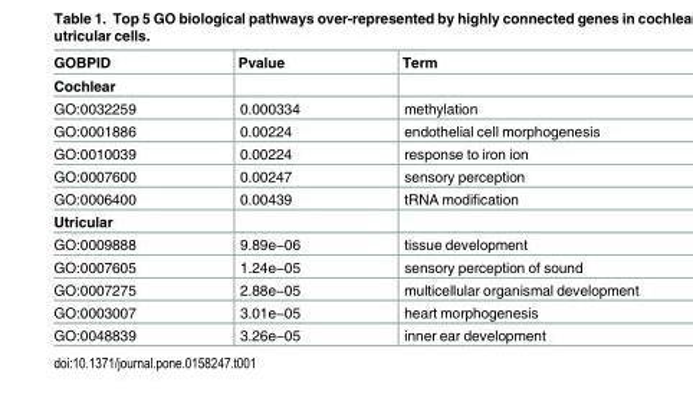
<table><thead><tr><td>GOBPID</td><td>Pvalue</td><td>Term</td></tr></thead><tbody><tr><td colspan="3">Cochlear</td></tr><tr><td>GO:0032259</td><td>0.000334</td><td>methylation</td></tr><tr><td>GO:0001886</td><td>0.00224</td><td>endothelial cell morphogenesis</td></tr><tr><td>GO:0010039</td><td>0.00224</td><td>response to iron ion</td></tr><tr><td>GO:0007600</td><td>0.00247</td><td>sensory perception</td></tr><tr><td>GO:0006400</td><td>0.00439</td><td>tRNA modification</td></tr><tr><td colspan="3">Utricular</td></tr><tr><td>GO:0009888</td><td>9.89e−06</td><td>tissue development</td></tr><tr><td>GO:0007605</td><td>1.24e−05</td><td>sensory perception of sound</td></tr><tr><td>GO:0007275</td><td>2.88e−05</td><td>multicellular organismal development</td></tr><tr><td>GO:0003007</td><td>3.01e−05</td><td>heart morphogenesis</td></tr><tr><td>GO:0048839</td><td>3.26e−05</td><td>inner ear development</td></tr></tbody></table>